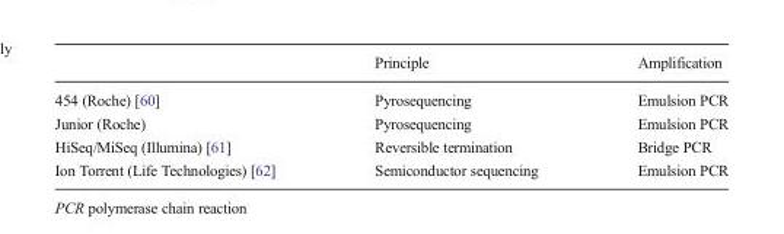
<table><thead><tr><td></td><td>Principle</td><td>Amplification</td></tr></thead><tbody><tr><td>454 (Roche) [60]</td><td>Pyrosequencing</td><td>Emulsion PCR</td></tr><tr><td>Junior (Roche)</td><td>Pyrosequencing</td><td>Emulsion PCR</td></tr><tr><td>HiSeq/MiSeq (Illumina) [61]</td><td>Reversible termination</td><td>Bridge PCR</td></tr><tr><td>Ion Torrent (Life Technologies) [62]</td><td>Semiconductor sequencing</td><td>Emulsion PCR</td></tr></tbody></table>